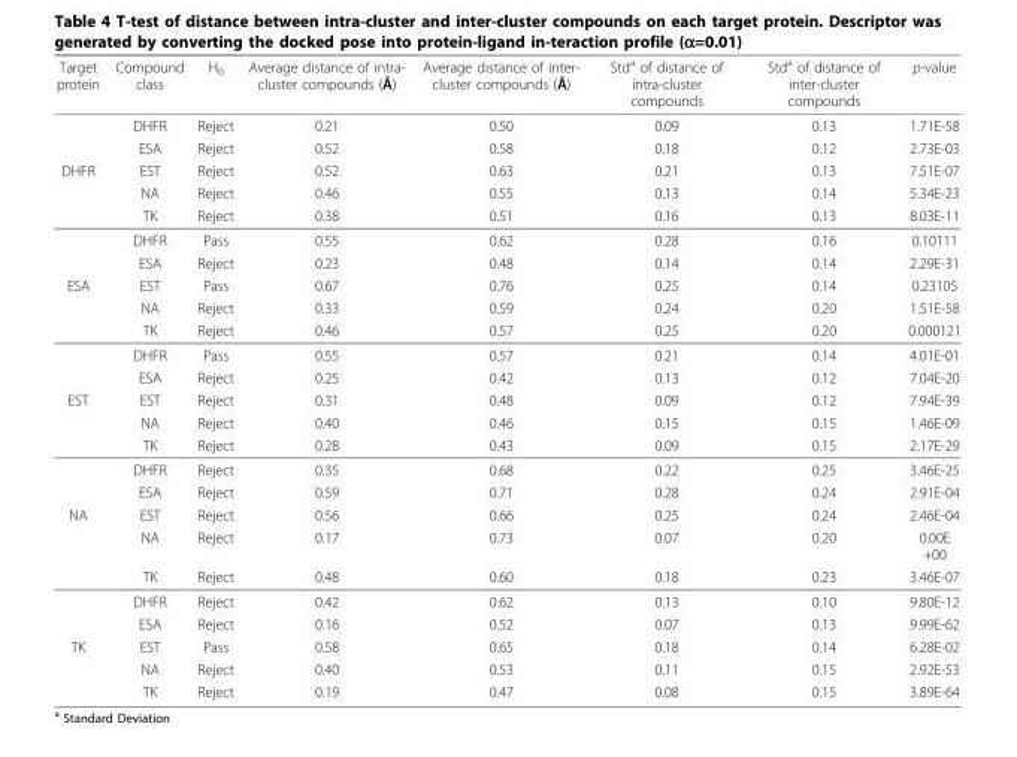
<table><thead><tr><td>Target protein</td><td>Compound class</td><td>H<sub>0</sub></td><td>Average distance of intra- cluster compounds (Å)</td><td>Average distance of inter- cluster compounds (Å)</td><td>Std<sup>a</sup> of distance of intra-cluster compounds</td><td>Std<sup>a</sup> of distance of inter-cluster compounds</td><td>p-value</td></tr></thead><tbody><tr><td></td><td>DHFR</td><td>Reject</td><td>0.21</td><td>0.50</td><td>0.09</td><td>0.13</td><td>1.71E-58</td></tr><tr><td></td><td>ESA</td><td>Reject</td><td>0.52</td><td>0.58</td><td>0.18</td><td>0.12</td><td>2.73E-03</td></tr><tr><td rowspan="5">DHFR</td><td>EST</td><td>Reject</td><td>0.52</td><td>0.63</td><td>0.21</td><td>0.13</td><td>7.51E-07</td></tr><tr><td>NA</td><td>Reject</td><td>0.46</td><td>0.55</td><td>0.13</td><td>0.14</td><td>5.34E-23</td></tr><tr><td>TK</td><td>Reject</td><td>0.38</td><td>0.51</td><td>0.16</td><td>0.13</td><td>8.03E-11</td></tr><tr><td>DHFR</td><td>Pass</td><td>0.55</td><td>0.62</td><td>0.28</td><td>0.16</td><td>0.10111</td></tr><tr><td>ESA</td><td>Reject</td><td>0.23</td><td>0.48</td><td>0.14</td><td>0.14</td><td>2.29E-31</td></tr><tr><td rowspan="5">ESA</td><td>EST</td><td>Pass</td><td>0.67</td><td>0.76</td><td>0.25</td><td>0.14</td><td>0.23105</td></tr><tr><td>NA</td><td>Reject</td><td>0.33</td><td>0.59</td><td>0.24</td><td>0.20</td><td>1.51E-58</td></tr><tr><td>TK</td><td>Reject</td><td>0.46</td><td>0.57</td><td>0.25</td><td>0.20</td><td>0.000121</td></tr><tr><td>DHFR</td><td>Pass</td><td>0.55</td><td>0.57</td><td>0.21</td><td>0.14</td><td>4.01E-01</td></tr><tr><td>ESA</td><td>Reject</td><td>0.25</td><td>0.42</td><td>0.13</td><td>0.12</td><td>7.04E-20</td></tr><tr><td rowspan="5">EST</td><td>EST</td><td>Reject</td><td>0.31</td><td>0.48</td><td>0.09</td><td>0.12</td><td>7.94E-39</td></tr><tr><td>NA</td><td>Reject</td><td>0.40</td><td>0.46</td><td>0.15</td><td>0.15</td><td>1.46E-09</td></tr><tr><td>TK</td><td>Reject</td><td>0.28</td><td>0.43</td><td>0.09</td><td>0.15</td><td>2.17E-29</td></tr><tr><td>DHFR</td><td>Reject</td><td>0.35</td><td>0.68</td><td>0.22</td><td>0.25</td><td>3.46E-25</td></tr><tr><td>ESA</td><td>Reject</td><td>0.59</td><td>0.71</td><td>0.28</td><td>0.24</td><td>2.91E-04</td></tr><tr><td rowspan="5">NA</td><td>EST</td><td>Reject</td><td>0.56</td><td>0.66</td><td>0.25</td><td>0.24</td><td>2.46E-04</td></tr><tr><td>NA</td><td>Reject</td><td>0.17</td><td>0.73</td><td>0.07</td><td>0.20</td><td>0.00E +00</td></tr><tr><td>TK</td><td>Reject</td><td>0.48</td><td>0.60</td><td>0.18</td><td>0.23</td><td>3.46E-07</td></tr><tr><td>DHFR</td><td>Reject</td><td>0.42</td><td>0.62</td><td>0.13</td><td>0.10</td><td>9.80E-12</td></tr><tr><td>ESA</td><td>Reject</td><td>0.16</td><td>0.52</td><td>0.07</td><td>0.13</td><td>9.99E-62</td></tr><tr><td rowspan="3">TK</td><td>EST</td><td>Pass</td><td>0.58</td><td>0.65</td><td>0.18</td><td>0.14</td><td>6.28E-02</td></tr><tr><td>NA</td><td>Reject</td><td>0.40</td><td>0.53</td><td>0.11</td><td>0.15</td><td>2.92E-53</td></tr><tr><td>TK</td><td>Reject</td><td>0.19</td><td>0.47</td><td>0.08</td><td>0.15</td><td>3.89E-64</td></tr></tbody></table>